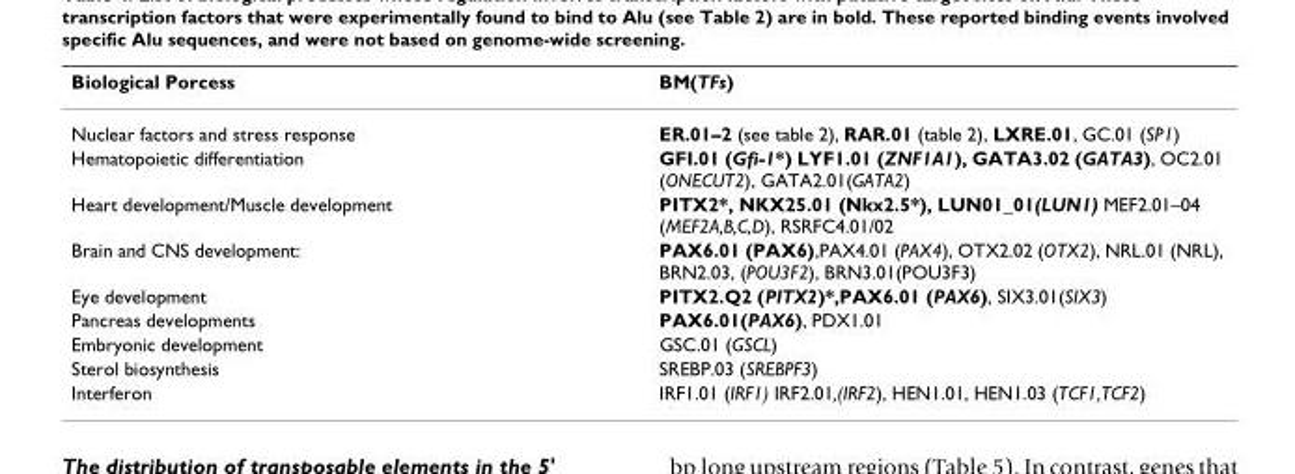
<table><thead><tr><td>Biological Porcess</td><td>BM(TFs)</td></tr></thead><tbody><tr><td>Nuclear factors and stress response</td><td>ER.01–2 (see table 2), RAR.01 (table 2), LXRE.01, GC.01 (SP1)</td></tr><tr><td>Hematopoietic differentiation</td><td>GFI.01 (Gfi-1*) LYF1.01 (ZNF1A1), GATA3.02 (GATA3), OC2.01 (ONECUT2), GATA2.01(GATA2)</td></tr><tr><td>Heart development/Muscle development</td><td>PITX2*, NKX25.01 (Nkx2.5*), LUN01_01(LUN1) MEF2.01–04 (MEF2A,B,C,D), RSRFC4.01/02</td></tr><tr><td>Brain and CNS development:</td><td>PAX6.01 (PAX6),PAX4.01 (PAX4), OTX2.02 (OTX2), NRL.01 (NRL), BRN2.03, (POU3F2), BRN3.01(POU3F3)</td></tr><tr><td>Eye development</td><td>PITX2.Q2 (PITX2)*,PAX6.01 (PAX6), SIX3.01(SIX3)</td></tr><tr><td>Pancreas developments</td><td>PAX6.01(PAX6), PDX1.01</td></tr><tr><td>Embryonic development</td><td>GSC.01 (GSCL)</td></tr><tr><td>Sterol biosynthesis</td><td>SREBP.03 (SREBPF3)</td></tr><tr><td>Interferon</td><td>IRF1.01 (IRF1) IRF2.01,(IRF2), HEN1.01, HEN1.03 (TCF1,TCF2)</td></tr></tbody></table>